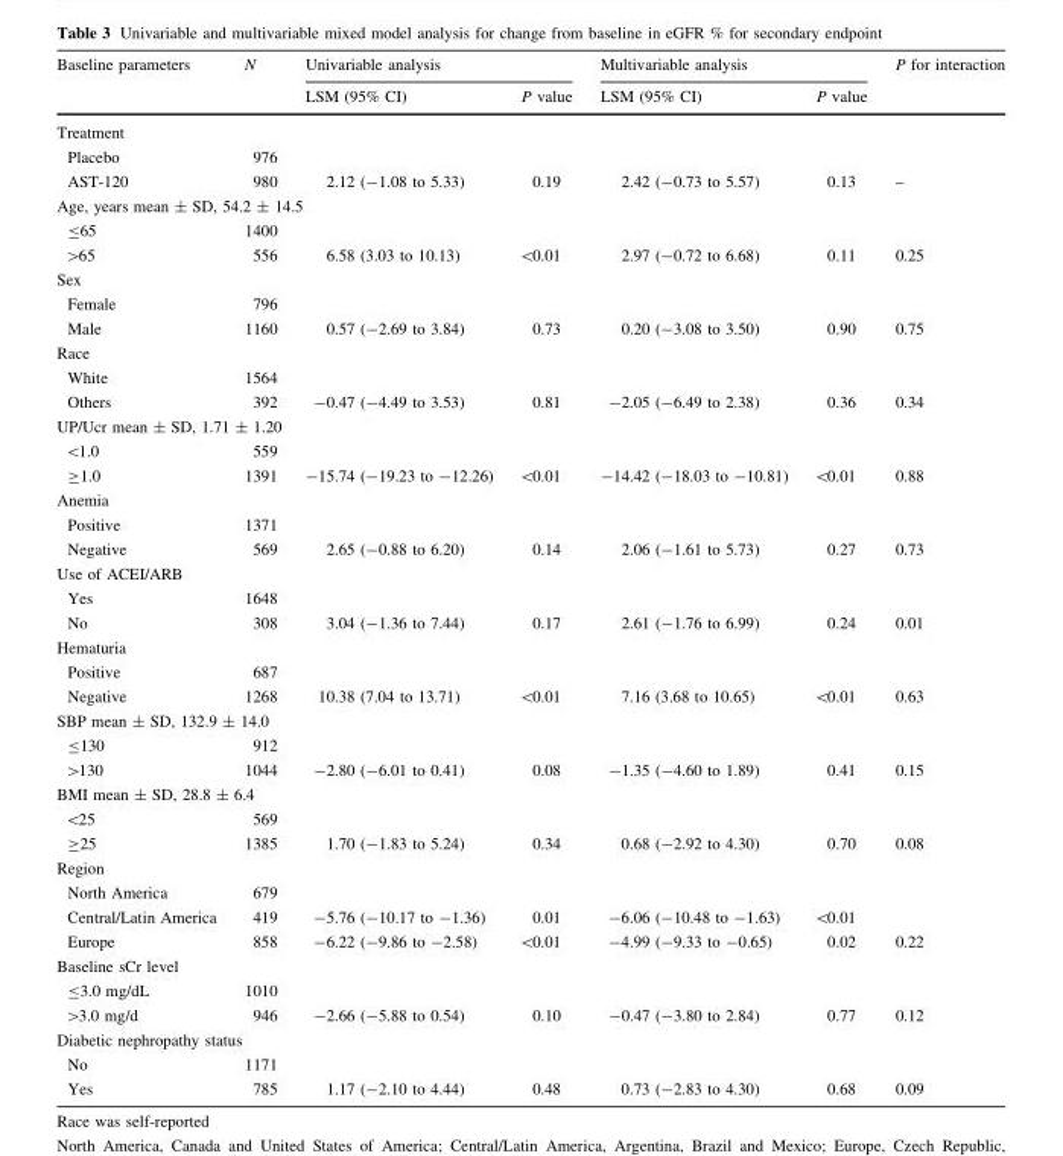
<table><thead><tr><td rowspan="2">Baseline parameters</td><td rowspan="2">N</td><td colspan="2">Univariable analysis</td><td colspan="2">Multivariable analysis</td><td rowspan="2">P for interaction</td></tr><tr><td>LSM (95% CI)</td><td>P value</td><td>LSM (95% CI)</td><td>P value</td></tr></thead><tbody><tr><td colspan="7">Treatment</td></tr><tr><td>Placebo</td><td>976</td><td></td><td></td><td></td><td></td><td></td></tr><tr><td>AST-120</td><td>980</td><td>2.12 (-1.08 to 5.33)</td><td>0.19</td><td>2.42 (-0.73 to 5.57)</td><td>0.13</td><td>–</td></tr><tr><td colspan="7">Age, years mean ± SD, 54.2 ± 14.5</td></tr><tr><td>≤65</td><td>1400</td><td></td><td></td><td></td><td></td><td></td></tr><tr><td>&gt;65</td><td>556</td><td>6.58 (3.03 to 10.13)</td><td>&lt;0.01</td><td>2.97 (-0.72 to 6.68)</td><td>0.11</td><td>0.25</td></tr><tr><td colspan="7">Sex</td></tr><tr><td>Female</td><td>796</td><td></td><td></td><td></td><td></td><td></td></tr><tr><td>Male</td><td>1160</td><td>0.57 (-2.69 to 3.84)</td><td>0.73</td><td>0.20 (-3.08 to 3.50)</td><td>0.90</td><td>0.75</td></tr><tr><td colspan="7">Race</td></tr><tr><td>White</td><td>1564</td><td></td><td></td><td></td><td></td><td></td></tr><tr><td>Others</td><td>392</td><td>-0.47 (-4.49 to 3.53)</td><td>0.81</td><td>-2.05 (-6.49 to 2.38)</td><td>0.36</td><td>0.34</td></tr><tr><td colspan="7">UP/Ucr mean ± SD, 1.71 ± 1.20</td></tr><tr><td>&lt;1.0</td><td>559</td><td></td><td></td><td></td><td></td><td></td></tr><tr><td>≥1.0</td><td>1391</td><td>-15.74 (-19.23 to -12.26)</td><td>&lt;0.01</td><td>-14.42 (-18.03 to -10.81)</td><td>&lt;0.01</td><td>0.88</td></tr><tr><td colspan="7">Anemia</td></tr><tr><td>Positive</td><td>1371</td><td></td><td></td><td></td><td></td><td></td></tr><tr><td>Negative</td><td>569</td><td>2.65 (-0.88 to 6.20)</td><td>0.14</td><td>2.06 (-1.61 to 5.73)</td><td>0.27</td><td>0.73</td></tr><tr><td colspan="7">Use of ACEI/ARB</td></tr><tr><td>Yes</td><td>1648</td><td></td><td></td><td></td><td></td><td></td></tr><tr><td>No</td><td>308</td><td>3.04 (-1.36 to 7.44)</td><td>0.17</td><td>2.61 (-1.76 to 6.99)</td><td>0.24</td><td>0.01</td></tr><tr><td colspan="7">Hematuria</td></tr><tr><td>Positive</td><td>687</td><td></td><td></td><td></td><td></td><td></td></tr><tr><td>Negative</td><td>1268</td><td>10.38 (7.04 to 13.71)</td><td>&lt;0.01</td><td>7.16 (3.68 to 10.65)</td><td>&lt;0.01</td><td>0.63</td></tr><tr><td colspan="7">SBP mean ± SD, 132.9 ± 14.0</td></tr><tr><td>≤130</td><td>912</td><td></td><td></td><td></td><td></td><td></td></tr><tr><td>&gt;130</td><td>1044</td><td>-2.80 (-6.01 to 0.41)</td><td>0.08</td><td>-1.35 (-4.60 to 1.89)</td><td>0.41</td><td>0.15</td></tr><tr><td colspan="7">BMI mean ± SD, 28.8 ± 6.4</td></tr><tr><td>&lt;25</td><td>569</td><td></td><td></td><td></td><td></td><td></td></tr><tr><td>≥25</td><td>1385</td><td>1.70 (-1.83 to 5.24)</td><td>0.34</td><td>0.68 (-2.92 to 4.30)</td><td>0.70</td><td>0.08</td></tr><tr><td colspan="7">Region</td></tr><tr><td>North America</td><td>679</td><td></td><td></td><td></td><td></td><td></td></tr><tr><td>Central/Latin America</td><td>419</td><td>-5.76 (-10.17 to -1.36)</td><td>0.01</td><td>-6.06 (-10.48 to -1.63)</td><td>&lt;0.01</td><td></td></tr><tr><td>Europe</td><td>858</td><td>-6.22 (-9.86 to -2.58)</td><td>&lt;0.01</td><td>-4.99 (-9.33 to -0.65)</td><td>0.02</td><td>0.22</td></tr><tr><td colspan="7">Baseline sCr level</td></tr><tr><td>≤3.0 mg/dL</td><td>1010</td><td></td><td></td><td></td><td></td><td></td></tr><tr><td>&gt;3.0 mg/d</td><td>946</td><td>-2.66 (-5.88 to 0.54)</td><td>0.10</td><td>-0.47 (-3.80 to 2.84)</td><td>0.77</td><td>0.12</td></tr><tr><td colspan="7">Diabetic nephropathy status</td></tr><tr><td>No</td><td>1171</td><td></td><td></td><td></td><td></td><td></td></tr><tr><td>Yes</td><td>785</td><td>1.17 (-2.10 to 4.44)</td><td>0.48</td><td>0.73 (-2.83 to 4.30)</td><td>0.68</td><td>0.09</td></tr></tbody></table>